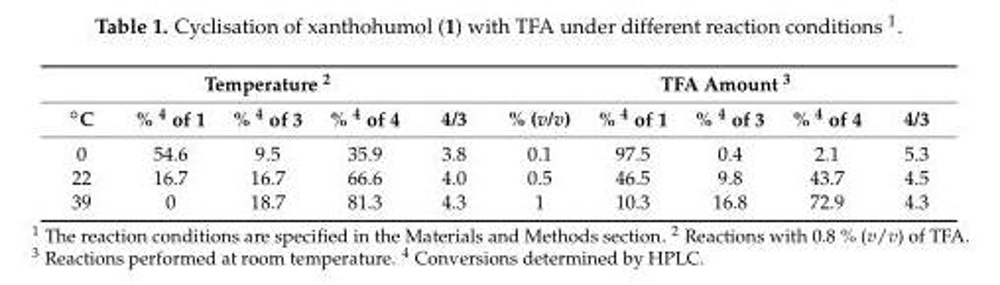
<table><thead><tr><td colspan="5">Temperature 2</td><td colspan="5">TFA Amount 3</td></tr><tr><td>◦C</td><td>% 4 of 1</td><td>% 4 of 3</td><td>% 4 of 4</td><td>4/3</td><td>% (v/v)</td><td>% 4 of 1</td><td>% 4 of 3</td><td>% 4 of 4</td><td>4/3</td></tr></thead><tbody><tr><td>0</td><td>54.6</td><td>9.5</td><td>35.9</td><td>3.8</td><td>0.1</td><td>97.5</td><td>0.4</td><td>2.1</td><td>5.3</td></tr><tr><td>22</td><td>16.7</td><td>16.7</td><td>66.6</td><td>4.0</td><td>0.5</td><td>46.5</td><td>9.8</td><td>43.7</td><td>4.5</td></tr><tr><td>39</td><td>0</td><td>18.7</td><td>81.3</td><td>4.3</td><td>1</td><td>10.3</td><td>16.8</td><td>72.9</td><td>4.3</td></tr></tbody></table>